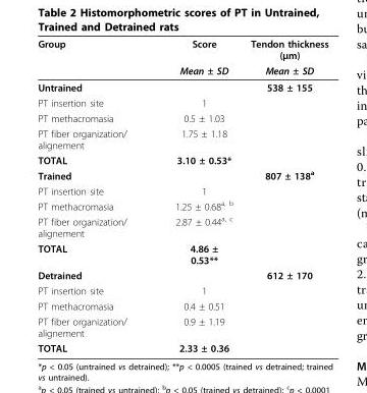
<table><thead><tr><td rowspan="2">Group</td><td rowspan="2">Score Mean ± SD</td><td rowspan="2">Tendon thickness (μm) Mean ± SD</td></tr><tr></tr></thead><tbody><tr><td>Untrained</td><td></td><td>538 ± 155</td></tr><tr><td>PT insertion site</td><td>1</td><td></td></tr><tr><td>PT methacromasia</td><td>0.5 ± 1.03</td><td></td></tr><tr><td>PT fiber organization/ alignement</td><td>1.75 ± 1.18</td><td></td></tr><tr><td>TOTAL</td><td>3.10 ± 0.53*</td><td></td></tr><tr><td>Trained</td><td></td><td>807 ± 138<sup>a</sup></td></tr><tr><td>PT insertion site</td><td>1</td><td></td></tr><tr><td>PT methacromasia</td><td>1.25 ± 0.68<sup>a, b</sup></td><td></td></tr><tr><td>PT fiber organization/ alignement</td><td>2.87 ± 0.44<sup>a, c</sup></td><td></td></tr><tr><td>TOTAL</td><td>4.86 ± 0.53**</td><td></td></tr><tr><td>Detrained</td><td></td><td>612 ± 170</td></tr><tr><td>PT insertion site</td><td>1</td><td></td></tr><tr><td>PT methacromasia</td><td>0.4 ± 0.51</td><td></td></tr><tr><td>PT fiber organization/ alignement</td><td>0.9 ± 1.19</td><td></td></tr><tr><td>TOTAL</td><td>2.33 ± 0.36</td><td></td></tr></tbody></table>